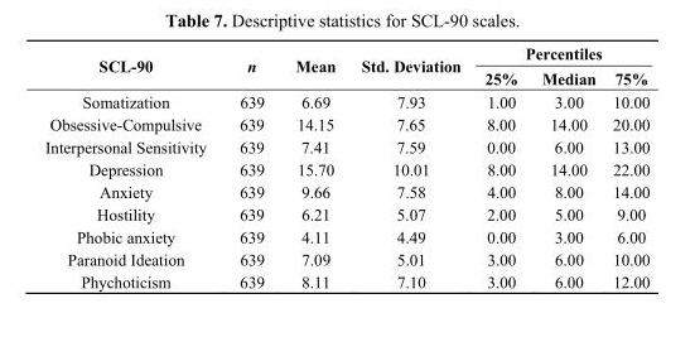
<table><thead><tr><td rowspan="2">SCL-90</td><td rowspan="2">n</td><td rowspan="2">Mean</td><td rowspan="2">Std. Deviation</td><td colspan="3">Percentiles</td></tr><tr><td>25%</td><td>Median</td><td>75%</td></tr></thead><tbody><tr><td>Somatization</td><td>639</td><td>6.69</td><td>7.93</td><td>1.00</td><td>3.00</td><td>10.00</td></tr><tr><td>Obsessive-Compulsive</td><td>639</td><td>14.15</td><td>7.65</td><td>8.00</td><td>14.00</td><td>20.00</td></tr><tr><td>Interpersonal Sensitivity</td><td>639</td><td>7.41</td><td>7.59</td><td>0.00</td><td>6.00</td><td>13.00</td></tr><tr><td>Depression</td><td>639</td><td>15.70</td><td>10.01</td><td>8.00</td><td>14.00</td><td>22.00</td></tr><tr><td>Anxiety</td><td>639</td><td>9.66</td><td>7.58</td><td>4.00</td><td>8.00</td><td>14.00</td></tr><tr><td>Hostility</td><td>639</td><td>6.21</td><td>5.07</td><td>2.00</td><td>5.00</td><td>9.00</td></tr><tr><td>Phobic anxiety</td><td>639</td><td>4.11</td><td>4.49</td><td>0.00</td><td>3.00</td><td>6.00</td></tr><tr><td>Paranoid Ideation</td><td>639</td><td>7.09</td><td>5.01</td><td>3.00</td><td>6.00</td><td>10.00</td></tr><tr><td>Phychoticism</td><td>639</td><td>8.11</td><td>7.10</td><td>3.00</td><td>6.00</td><td>12.00</td></tr></tbody></table>